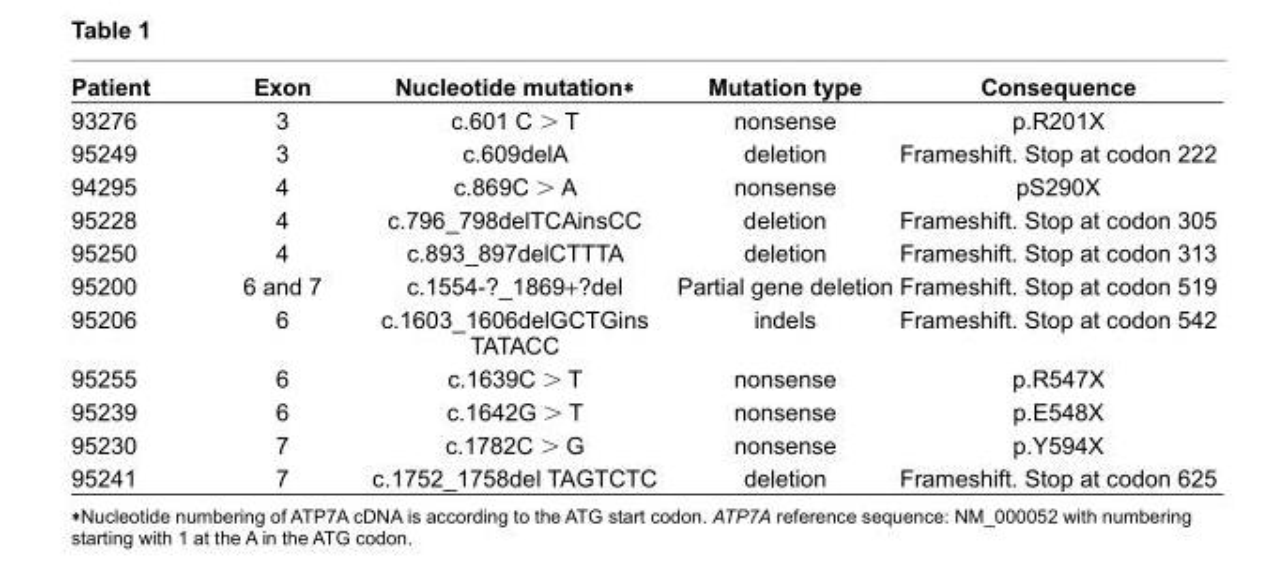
<table><thead><tr><td>Patient</td><td>Exon</td><td>Nucleotide mutation∗</td><td>Mutation type</td><td>Consequence</td></tr></thead><tbody><tr><td>93276</td><td>3</td><td>c.601 C &gt; T</td><td>nonsense</td><td>p.R201X</td></tr><tr><td>95249</td><td>3</td><td>c.609delA</td><td>deletion</td><td>Frameshift. Stop at codon 222</td></tr><tr><td>94295</td><td>4</td><td>c.869C &gt; A</td><td>nonsense</td><td>pS290X</td></tr><tr><td>95228</td><td>4</td><td>c.796_798delTCAinsCC</td><td>deletion</td><td>Frameshift. Stop at codon 305</td></tr><tr><td>95250</td><td>4</td><td>c.893_897delCTTTA</td><td>deletion</td><td>Frameshift. Stop at codon 313</td></tr><tr><td>95200</td><td>6 and 7</td><td>c.1554-?_1869+?del</td><td>Partial gene deletion</td><td>Frameshift. Stop at codon 519</td></tr><tr><td>95206</td><td>6</td><td>c.1603 _1606delGCTGins TATACC</td><td>indels</td><td>Frameshift. Stop at codon 542</td></tr><tr><td>95255</td><td>6</td><td>c.1639C &gt; T</td><td>nonsense</td><td>p.R547X</td></tr><tr><td>95239</td><td>6</td><td>c.1642G &gt; T</td><td>nonsense</td><td>p.E548X</td></tr><tr><td>95230</td><td>7</td><td>c.1782C &gt; G</td><td>nonsense</td><td>p.Y594X</td></tr><tr><td>95241</td><td>7</td><td>c.1752 _1758del TAGTCTC</td><td>deletion</td><td>Frameshift. Stop at codon 625</td></tr></tbody></table>